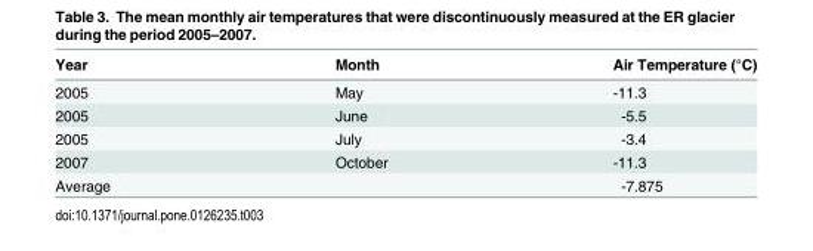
<table><thead><tr><td>Year</td><td>Month</td><td>Air Temperature (°C)</td></tr></thead><tbody><tr><td>2005</td><td>May</td><td>-11.3</td></tr><tr><td>2005</td><td>June</td><td>-5.5</td></tr><tr><td>2005</td><td>July</td><td>-3.4</td></tr><tr><td>2007</td><td>October</td><td>-11.3</td></tr><tr><td>Average</td><td></td><td>-7.875</td></tr></tbody></table>